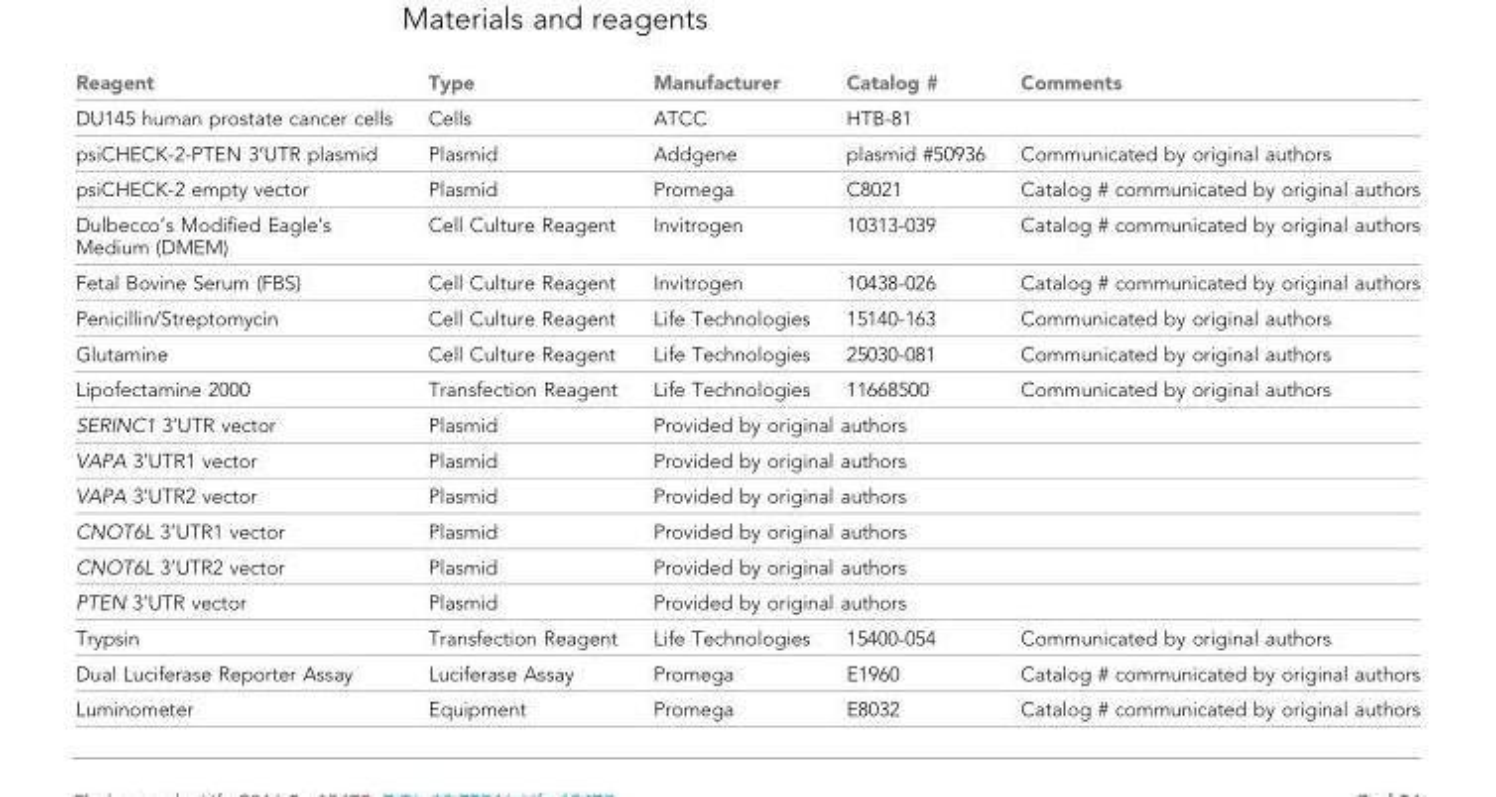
<table><thead><tr><td>Reagent</td><td>Type</td><td>Manufacturer</td><td>Catalog #</td><td>Comments</td></tr></thead><tbody><tr><td>DU145 human prostate cancer cells</td><td>Cells</td><td>ATCC</td><td>HTB-81</td><td></td></tr><tr><td>psiCHECK-2-PTEN 3’UTR plasmid</td><td>Plasmid</td><td>Addgene</td><td>plasmid #50936</td><td>Communicated by original authors</td></tr><tr><td>psiCHECK-2 empty vector</td><td>Plasmid</td><td>Promega</td><td>C8021</td><td>Catalog # communicated by original authors</td></tr><tr><td>Dulbecco’s Modified Eagle’s Medium (DMEM)</td><td>Cell Culture Reagent</td><td>Invitrogen</td><td>10313-039</td><td>Catalog # communicated by original authors</td></tr><tr><td>Fetal Bovine Serum (FBS)</td><td>Cell Culture Reagent</td><td>Invitrogen</td><td>10438-026</td><td>Catalog # communicated by original authors</td></tr><tr><td>Penicillin/Streptomycin</td><td>Cell Culture Reagent</td><td>Life Technologies</td><td>15140-163</td><td>Communicated by original authors</td></tr><tr><td>Glutamine</td><td>Cell Culture Reagent</td><td>Life Technologies</td><td>25030-081</td><td>Communicated by original authors</td></tr><tr><td>Lipofectamine 2000</td><td>Transfection Reagent</td><td>Life Technologies</td><td>11668500</td><td>Communicated by original authors</td></tr><tr><td>SERINC1 3’UTR vector</td><td>Plasmid</td><td colspan="3">Provided by original authors</td></tr><tr><td>VAPA 3’UTR1 vector</td><td>Plasmid</td><td colspan="3">Provided by original authors</td></tr><tr><td>VAPA 3’UTR2 vector</td><td>Plasmid</td><td colspan="3">Provided by original authors</td></tr><tr><td>CNOT6L 3’UTR1 vector</td><td>Plasmid</td><td colspan="3">Provided by original authors</td></tr><tr><td>CNOT6L 3’UTR2 vector</td><td>Plasmid</td><td colspan="3">Provided by original authors</td></tr><tr><td>PTEN 3’UTR vector</td><td>Plasmid</td><td colspan="3">Provided by original authors</td></tr><tr><td>Trypsin</td><td>Transfection Reagent</td><td>Life Technologies</td><td>15400-054</td><td>Communicated by original authors</td></tr><tr><td>Dual Luciferase Reporter Assay</td><td>Luciferase Assay</td><td>Promega</td><td>E1960</td><td>Catalog # communicated by original authors</td></tr><tr><td>Luminometer</td><td>Equipment</td><td>Promega</td><td>E8032</td><td>Catalog # communicated by original authors</td></tr></tbody></table>